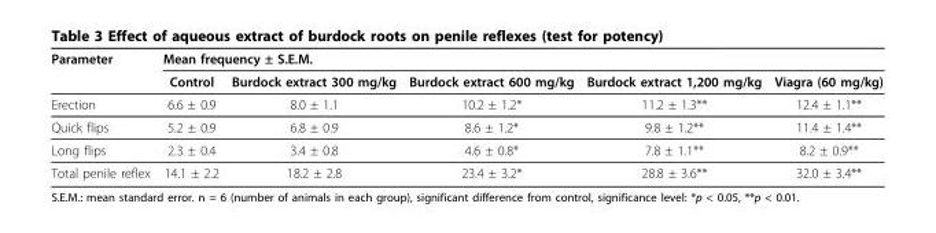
<table><thead><tr><td rowspan="2">Parameter</td><td colspan="5">Mean frequency ± S.E.M.</td></tr><tr><td>Control</td><td>Burdock extract 300 mg/kg</td><td>Burdock extract 600 mg/kg</td><td>Burdock extract 1,200 mg/kg</td><td>Viagra (60 mg/kg)</td></tr></thead><tbody><tr><td>Erection</td><td>6.6 ± 0.9</td><td>8.0 ± 1.1</td><td>10.2 ± 1.2*</td><td>11.2 ± 1.3**</td><td>12.4 ± 1.1**</td></tr><tr><td>Quick flips</td><td>5.2 ± 0.9</td><td>6.8 ± 0.9</td><td>8.6 ± 1.2*</td><td>9.8 ± 1.2**</td><td>11.4 ± 1.4**</td></tr><tr><td>Long flips</td><td>2.3 ± 0.4</td><td>3.4 ± 0.8</td><td>4.6 ± 0.8*</td><td>7.8 ± 1.1**</td><td>8.2 ± 0.9**</td></tr><tr><td>Total penile reflex</td><td>14.1 ± 2.2</td><td>18.2 ± 2.8</td><td>23.4 ± 3.2*</td><td>28.8 ± 3.6**</td><td>32.0 ± 3.4**</td></tr></tbody></table>